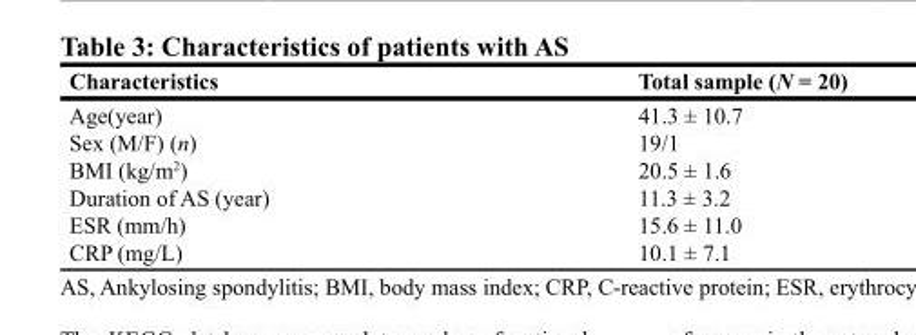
<table><thead><tr><td>Characteristics</td><td>Total sample (N = 20)</td></tr></thead><tbody><tr><td>Age(year) Sex (M/F) (n) BMI (kg/m<sup>2</sup>) Duration of AS (year) ESR (mm/h) CRP (mg/L)</td><td>41.3 ± 10.7 19/1 20.5 ± 1.6 11.3 ± 3.2 15.6 ± 11.0 10.1 ± 7.1</td></tr></tbody></table>